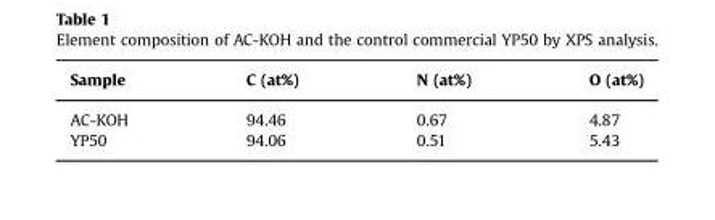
<table><thead><tr><td>Sample</td><td>C (at%)</td><td>N (at%)</td><td>O (at%)</td></tr></thead><tbody><tr><td>AC-KOH</td><td>94.46</td><td>0.67</td><td>4.87</td></tr><tr><td>YP50</td><td>94.06</td><td>0.51</td><td>5.43</td></tr></tbody></table>